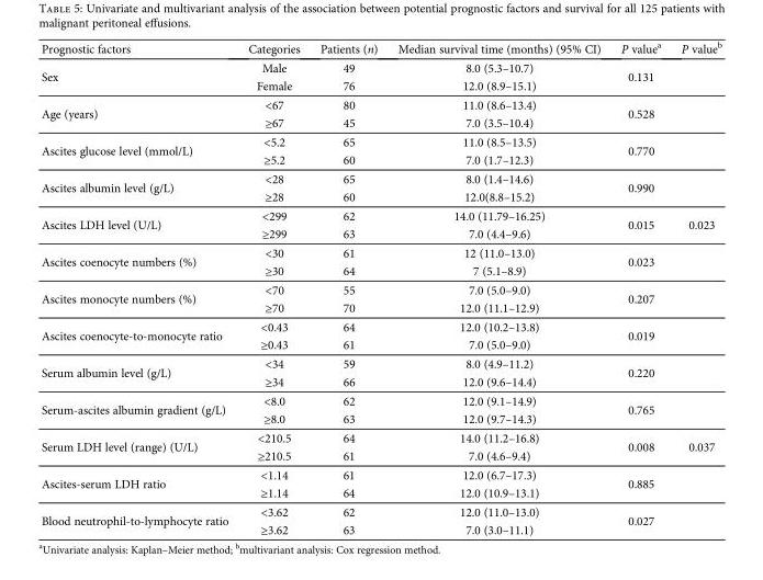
<table><thead><tr><td>Prognostic factors</td><td>Categories</td><td>Patients (n)</td><td>Median survival time (months) (95% CI)</td><td>P value<sup>a</sup></td><td>P value<sup>b</sup></td></tr></thead><tbody><tr><td rowspan="2">Sex</td><td>Male</td><td>49</td><td>8.0 (5.3–10.7)</td><td rowspan="2">0.131</td><td rowspan="2"></td></tr><tr><td>Female</td><td>76</td><td>12.0 (8.9–15.1)</td></tr><tr><td rowspan="2">Age (years)</td><td>&lt;67</td><td>80</td><td>11.0 (8.6–13.4)</td><td rowspan="2">0.528</td><td rowspan="2"></td></tr><tr><td>≥67</td><td>45</td><td>7.0 (3.5–10.4)</td></tr><tr><td rowspan="2">Ascites glucose level (mmol/L)</td><td>&lt;5.2</td><td>65</td><td>11.0 (8.5–13.5)</td><td rowspan="2">0.770</td><td rowspan="2"></td></tr><tr><td>≥5.2</td><td>60</td><td>7.0 (1.7–12.3)</td></tr><tr><td rowspan="2">Ascites albumin level (g/L)</td><td>&lt;28</td><td>65</td><td>8.0 (1.4–14.6)</td><td rowspan="2">0.990</td><td rowspan="2"></td></tr><tr><td>≥28</td><td>60</td><td>12.0(8.8–15.2)</td></tr><tr><td rowspan="2">Ascites LDH level (U/L)</td><td>&lt;299</td><td>62</td><td>14.0 (11.79–16.25)</td><td rowspan="2">0.015</td><td rowspan="2">0.023</td></tr><tr><td>≥299</td><td>63</td><td>7.0 (4.4–9.6)</td></tr><tr><td rowspan="2">Ascites coenocyte numbers (%)</td><td>&lt;30</td><td>61</td><td>12 (11.0–13.0)</td><td rowspan="2">0.023</td><td rowspan="2"></td></tr><tr><td>≥30</td><td>64</td><td>7 (5.1–8.9)</td></tr><tr><td rowspan="2">Ascites monocyte numbers (%)</td><td>&lt;70</td><td>55</td><td>7.0 (5.0–9.0)</td><td rowspan="2">0.207</td><td rowspan="2"></td></tr><tr><td>≥70</td><td>70</td><td>12.0 (11.1–12.9)</td></tr><tr><td rowspan="2">Ascites coenocyte-to-monocyte ratio</td><td>&lt;0.43</td><td>64</td><td>12.0 (10.2–13.8)</td><td rowspan="2">0.019</td><td rowspan="2"></td></tr><tr><td>≥0.43</td><td>61</td><td>7.0 (5.0–9.0)</td></tr><tr><td rowspan="2">Serum albumin level (g/L)</td><td>&lt;34</td><td>59</td><td>8.0 (4.9–11.2)</td><td rowspan="2">0.220</td><td rowspan="2"></td></tr><tr><td>≥34</td><td>66</td><td>12.0 (9.6–14.4)</td></tr><tr><td rowspan="2">Serum-ascites albumin gradient (g/L)</td><td>&lt;8.0</td><td>62</td><td>12.0 (9.1–14.9)</td><td rowspan="2">0.765</td><td rowspan="2"></td></tr><tr><td>≥8.0</td><td>63</td><td>12.0 (9.7–14.3)</td></tr><tr><td rowspan="2">Serum LDH level (range) (U/L)</td><td>&lt;210.5</td><td>64</td><td>14.0 (11.2–16.8)</td><td rowspan="2">0.008</td><td rowspan="2">0.037</td></tr><tr><td>≥210.5</td><td>61</td><td>7.0 (4.6–9.4)</td></tr><tr><td rowspan="2">Ascites-serum LDH ratio</td><td>&lt;1.14</td><td>61</td><td>12.0 (6.7–17.3)</td><td rowspan="2">0.885</td><td rowspan="2"></td></tr><tr><td>≥1.14</td><td>64</td><td>12.0 (10.9–13.1)</td></tr><tr><td rowspan="2">Blood neutrophil-to-lymphocyte ratio</td><td>&lt;3.62</td><td>62</td><td>12.0 (11.0–13.0)</td><td rowspan="2">0.027</td><td rowspan="2"></td></tr><tr><td>≥3.62</td><td>63</td><td>7.0 (3.0–11.1)</td></tr></tbody></table>